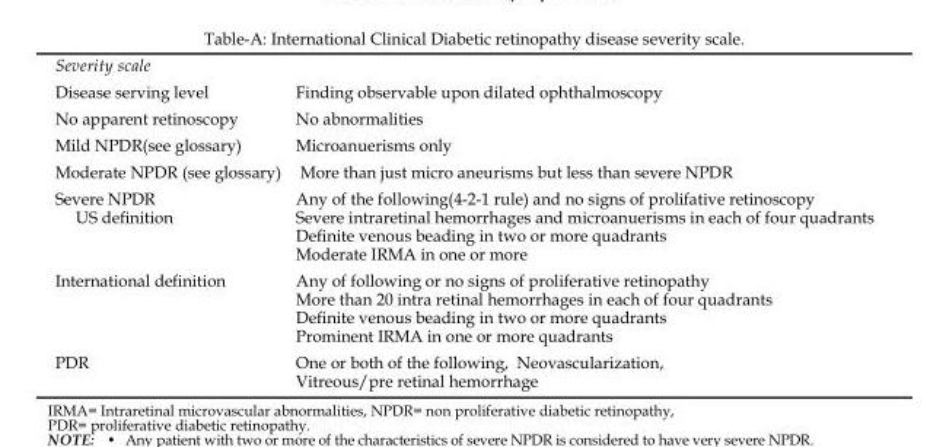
<table><tbody><tr><td colspan="2">Severity scale</td></tr><tr><td>Disease serving level</td><td>Finding observable upon dilated ophthalmoscopy</td></tr><tr><td>No apparent retinoscopy</td><td>No abnormalities</td></tr><tr><td>Mild NPDR(see glossary)</td><td>Microanuerisms only</td></tr><tr><td>Moderate NPDR (see glossary)</td><td>More than just micro aneurisms but less than severe NPDR</td></tr><tr><td>Severe NPDR US definition</td><td>Any of the following(4-2-1 rule) and no signs of prolifative retinoscopy Severe intraretinal hemorrhages and microanuerisms in each of four quadrants Definite venous beading in two or more quadrants Moderate IRMA in one or more</td></tr><tr><td>International definition</td><td>Any of following or no signs of proliferative retinopathy More than 20 intra retinal hemorrhages in each of four quadrants Definite venous beading in two or more quadrants Prominent IRMA in one or more quadrants</td></tr><tr><td>PDR</td><td>One or both of the following, Neovascularization, Vitreous/pre retinal hemorrhage</td></tr></tbody></table>